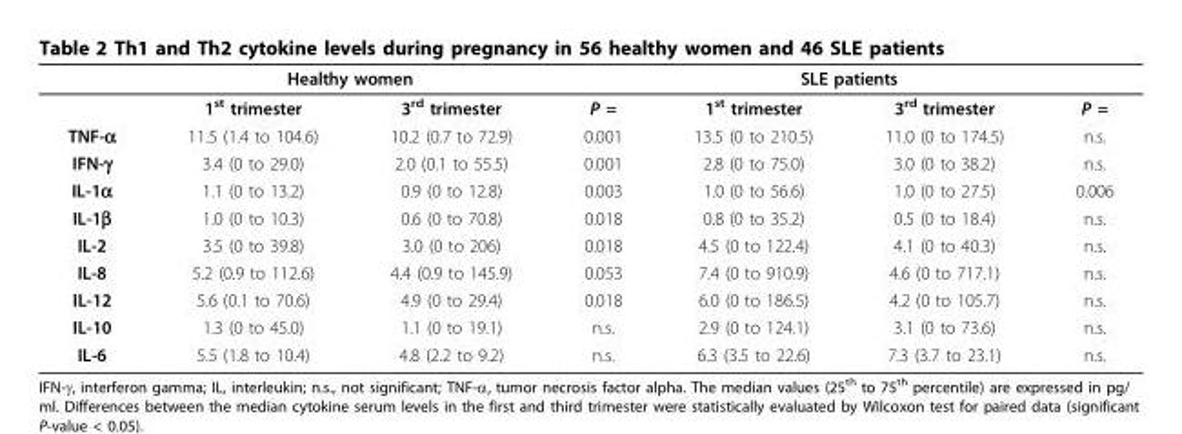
<table><thead><tr><td rowspan="2"></td><td colspan="2">Healthy women</td><td rowspan="2">P =</td><td colspan="2">SLE patients</td><td rowspan="2">P =</td></tr><tr><td>1<sup>st</sup> trimester</td><td>3<sup>rd</sup> trimester</td><td>1<sup>st</sup> trimester</td><td>3<sup>rd</sup> trimester</td></tr></thead><tbody><tr><td>TNF-α</td><td>11.5 (1.4 to 104.6)</td><td>10.2 (0.7 to 72.9)</td><td>0.001</td><td>13.5 (0 to 210.5)</td><td>11.0 (0 to 174.5)</td><td>n.s.</td></tr><tr><td>IFN-γ</td><td>3.4 (0 to 29.0)</td><td>2.0 (0.1 to 55.5)</td><td>0.001</td><td>2.8 (0 to 75.0)</td><td>3.0 (0 to 38.2)</td><td>n.s.</td></tr><tr><td>IL-1α</td><td>1.1 (0 to 13.2)</td><td>0.9 (0 to 12.8)</td><td>0.003</td><td>1.0 (0 to 56.6)</td><td>1.0 (0 to 27.5)</td><td>0.006</td></tr><tr><td>IL-1β</td><td>1.0 (0 to 10.3)</td><td>0.6 (0 to 70.8)</td><td>0.018</td><td>0.8 (0 to 35.2)</td><td>0.5 (0 to 18.4)</td><td>n.s.</td></tr><tr><td>IL-2</td><td>3.5 (0 to 39.8)</td><td>3.0 (0 to 206)</td><td>0.018</td><td>4.5 (0 to 122.4)</td><td>4.1 (0 to 40.3)</td><td>n.s.</td></tr><tr><td>IL-8</td><td>5.2 (0.9 to 112.6)</td><td>4.4 (0.9 to 145.9)</td><td>0.053</td><td>7.4 (0 to 910.9)</td><td>4.6 (0 to 717.1)</td><td>n.s.</td></tr><tr><td>IL-12</td><td>5.6 (0.1 to 70.6)</td><td>4.9 (0 to 29.4)</td><td>0.018</td><td>6.0 (0 to 186.5)</td><td>4.2 (0 to 105.7)</td><td>n.s.</td></tr><tr><td>IL-10</td><td>1.3 (0 to 45.0)</td><td>1.1 (0 to 19.1)</td><td>n.s.</td><td>2.9 (0 to 124.1)</td><td>3.1 (0 to 73.6)</td><td>n.s.</td></tr><tr><td>IL-6</td><td>5.5 (1.8 to 10.4)</td><td>4.8 (2.2 to 9.2)</td><td>n.s.</td><td>6.3 (3.5 to 22.6)</td><td>7.3 (3.7 to 23.1)</td><td>n.s.</td></tr></tbody></table>